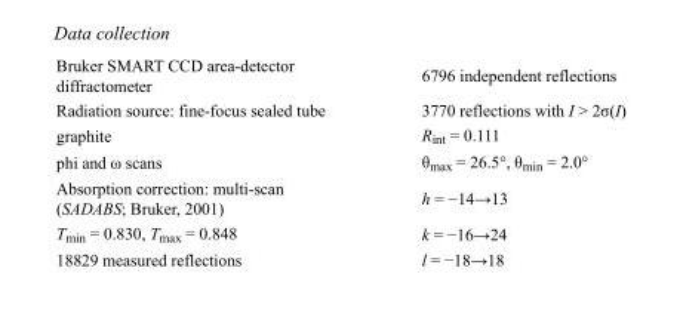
<table><tbody><tr><td>Bruker SMART CCD area-detector diffractometer</td><td>6796 independent reflections</td></tr><tr><td>Radiation source: fine-focus sealed tube</td><td>3770 reflections with I &gt; 2σ(I)</td></tr><tr><td>graphite</td><td>R<sub>int</sub> = 0.111</td></tr><tr><td>phi and ω scans</td><td>θ<sub>max</sub> = 26.5°, θ<sub>min</sub> = 2.0°</td></tr><tr><td>Absorption correction: multi-scan (SADABS; Bruker, 2001)</td><td>h = −14→13</td></tr><tr><td>T<sub>min</sub> = 0.830, T<sub>max</sub> = 0.848</td><td>k = −16→24</td></tr><tr><td>18829 measured reflections</td><td>l = −18→18</td></tr></tbody></table>